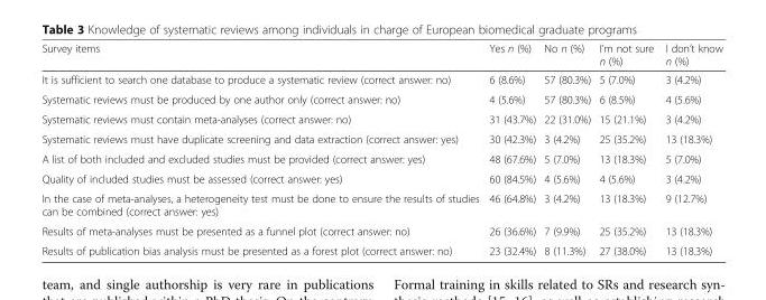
<table><thead><tr><td>Survey items</td><td>Yes n (%)</td><td>No n (%)</td><td>I’m not sure n (%)</td><td>I don’t know n (%)</td></tr></thead><tbody><tr><td>It is sufficient to search one database to produce a systematic review (correct answer: no)</td><td>6 (8.6%)</td><td>57 (80.3%)</td><td>5 (7.0%)</td><td>3 (4.2%)</td></tr><tr><td>Systematic reviews must be produced by one author only (correct answer: no)</td><td>4 (5.6%)</td><td>57 (80.3%)</td><td>6 (8.5%)</td><td>4 (5.6%)</td></tr><tr><td>Systematic reviews must contain meta-analyses (correct answer: no)</td><td>31 (43.7%)</td><td>22 (31.0%)</td><td>15 (21.1%)</td><td>3 (4.2%)</td></tr><tr><td>Systematic reviews must have duplicate screening and data extraction (correct answer: yes)</td><td>30 (42.3%)</td><td>3 (4.2%)</td><td>25 (35.2%)</td><td>13 (18.3%)</td></tr><tr><td>A list of both included and excluded studies must be provided (correct answer: yes)</td><td>48 (67.6%)</td><td>5 (7.0%)</td><td>13 (18.3%)</td><td>5 (7.0%)</td></tr><tr><td>Quality of included studies must be assessed (correct answer: yes)</td><td>60 (84.5%)</td><td>4 (5.6%)</td><td>4 (5.6%)</td><td>3 (4.2%)</td></tr><tr><td>In the case of meta-analyses, a heterogeneity test must be done to ensure the results of studies can be combined (correct answer: yes)</td><td>46 (64.8%)</td><td>3 (4.2%)</td><td>13 (18.3%)</td><td>9 (12.7%)</td></tr><tr><td>Results of meta-analyses must be presented as a funnel plot (correct answer: no)</td><td>26 (36.6%)</td><td>7 (9.9%)</td><td>25 (35.2%)</td><td>13 (18.3%)</td></tr><tr><td>Results of publication bias analysis must be presented as a forest plot (correct answer: no)</td><td>23 (32.4%)</td><td>8 (11.3%)</td><td>27 (38.0%)</td><td>13 (18.3%)</td></tr></tbody></table>